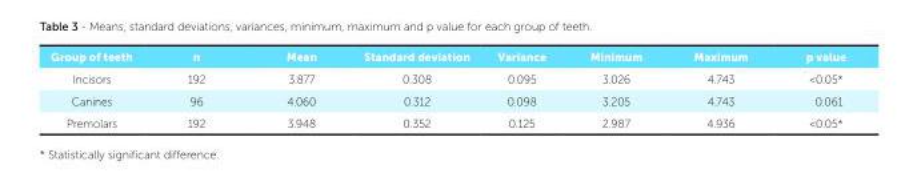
<table><tbody><tr><td>Group of teeth</td><td>n</td><td>Mean</td><td>Standard deviation</td><td>Variance</td><td>Minimum</td><td>Maximum</td><td>p value</td></tr><tr><td>Incisors</td><td>192</td><td>3.877</td><td>0.308</td><td>0.095</td><td>3.026</td><td>4.743</td><td>&lt;0.05*</td></tr><tr><td>Canines</td><td>96</td><td>4.060</td><td>0.312</td><td>0.098</td><td>3.205</td><td>4.743</td><td>0.061</td></tr><tr><td>Premolars</td><td>192</td><td>3.948</td><td>0.352</td><td>0.125</td><td>2.987</td><td>4.936</td><td>&lt;0.05*</td></tr></tbody></table>